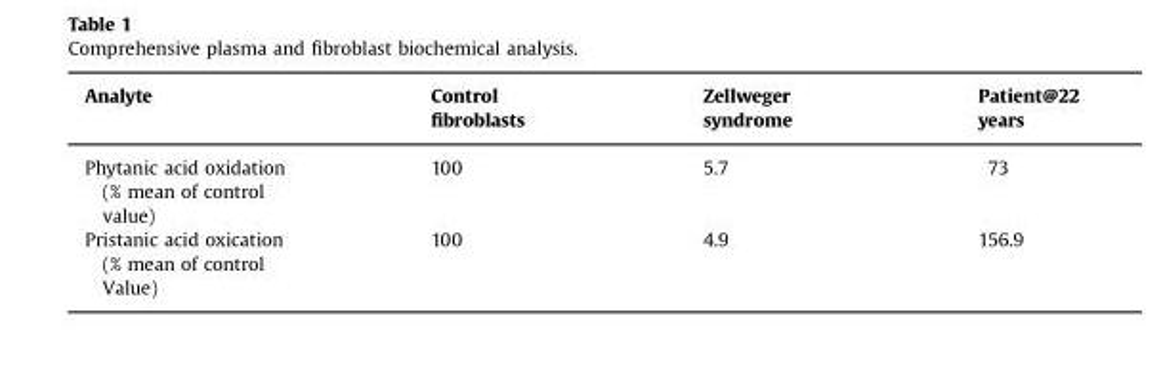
<table><thead><tr><td>Analyte</td><td>Control fibroblasts</td><td>Zellweger syndrome</td><td>Patient@22 years</td></tr></thead><tbody><tr><td>Phytanic acid oxidation (% mean of control value)</td><td>100</td><td>5.7</td><td>73</td></tr><tr><td>Pristanic acid oxication (% mean of control Value)</td><td>100</td><td>4.9</td><td>156.9</td></tr></tbody></table>